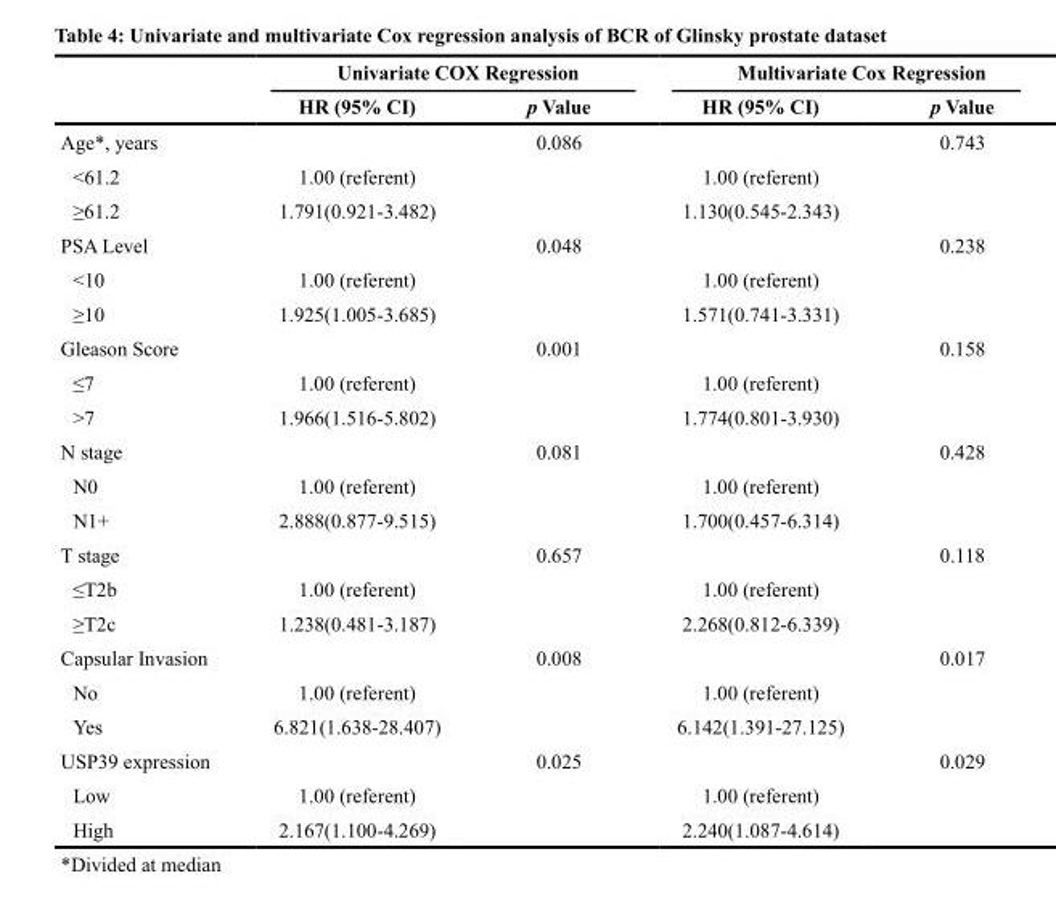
<table><thead><tr><td rowspan="2"></td><td colspan="2">Univariate COX Regression</td><td colspan="2">Multivariate Cox Regression</td></tr><tr><td>HR (95% CI)</td><td>p Value</td><td>HR (95% CI)</td><td>p Value</td></tr></thead><tbody><tr><td>Age*, years</td><td></td><td>0.086</td><td></td><td>0.743</td></tr><tr><td>&lt;61.2</td><td>1.00 (referent)</td><td></td><td>1.00 (referent)</td><td></td></tr><tr><td>≥61.2</td><td>1.791(0.921-3.482)</td><td></td><td>1.130(0.545-2.343)</td><td></td></tr><tr><td>PSA Level</td><td></td><td>0.048</td><td></td><td>0.238</td></tr><tr><td>&lt;10</td><td>1.00 (referent)</td><td></td><td>1.00 (referent)</td><td></td></tr><tr><td>≥10</td><td>1.925(1.005-3.685)</td><td></td><td>1.571(0.741-3.331)</td><td></td></tr><tr><td>Gleason Score</td><td></td><td>0.001</td><td></td><td>0.158</td></tr><tr><td>≤7</td><td>1.00 (referent)</td><td></td><td>1.00 (referent)</td><td></td></tr><tr><td>&gt;7</td><td>1.966(1.516-5.802)</td><td></td><td>1.774(0.801-3.930)</td><td></td></tr><tr><td>N stage</td><td></td><td>0.081</td><td></td><td>0.428</td></tr><tr><td>N0</td><td>1.00 (referent)</td><td></td><td>1.00 (referent)</td><td></td></tr><tr><td>N1+</td><td>2.888(0.877-9.515)</td><td></td><td>1.700(0.457-6.314)</td><td></td></tr><tr><td>T stage</td><td></td><td>0.657</td><td></td><td>0.118</td></tr><tr><td>≤T2b</td><td>1.00 (referent)</td><td></td><td>1.00 (referent)</td><td></td></tr><tr><td>≥T2c</td><td>1.238(0.481-3.187)</td><td></td><td>2.268(0.812-6.339)</td><td></td></tr><tr><td>Capsular Invasion</td><td></td><td>0.008</td><td></td><td>0.017</td></tr><tr><td>No</td><td>1.00 (referent)</td><td></td><td>1.00 (referent)</td><td></td></tr><tr><td>Yes</td><td>6.821(1.638-28.407)</td><td></td><td>6.142(1.391-27.125)</td><td></td></tr><tr><td>USP39 expression</td><td></td><td>0.025</td><td></td><td>0.029</td></tr><tr><td>Low</td><td>1.00 (referent)</td><td></td><td>1.00 (referent)</td><td></td></tr><tr><td>High</td><td>2.167(1.100-4.269)</td><td></td><td>2.240(1.087-4.614)</td><td></td></tr></tbody></table>